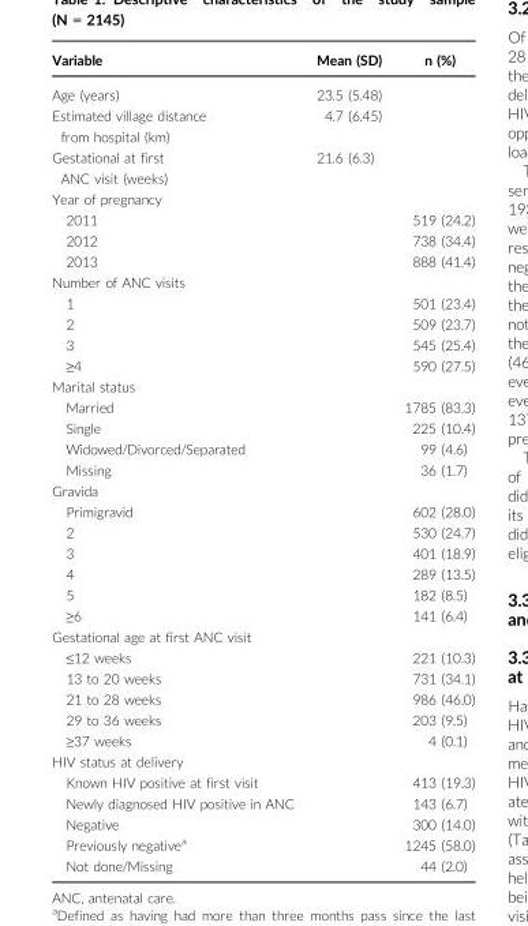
<table><thead><tr><td>Variable</td><td>Mean (SD)</td><td>n (%)</td></tr></thead><tbody><tr><td>Age (years)</td><td>23.5 (5.48)</td><td></td></tr><tr><td>Estimated village distance from hospital (km)</td><td>4.7 (6.45)</td><td></td></tr><tr><td>Gestational at first ANC visit (weeks)</td><td>21.6 (6.3)</td><td></td></tr><tr><td colspan="3">Year of pregnancy</td></tr><tr><td>2011</td><td></td><td>519 (24.2)</td></tr><tr><td>2012</td><td></td><td>738 (34.4)</td></tr><tr><td>2013</td><td></td><td>888 (41.4)</td></tr><tr><td colspan="3">Number of ANC visits</td></tr><tr><td>1</td><td></td><td>501 (23.4)</td></tr><tr><td>2</td><td></td><td>509 (23.7)</td></tr><tr><td>3</td><td></td><td>545 (25.4)</td></tr><tr><td>≥4</td><td></td><td>590 (27.5)</td></tr><tr><td colspan="3">Marital status</td></tr><tr><td>Married</td><td></td><td>1785 (83.3)</td></tr><tr><td>Single</td><td></td><td>225 (10.4)</td></tr><tr><td>Widowed/Divorced/Separated</td><td></td><td>99 (4.6)</td></tr><tr><td>Missing</td><td></td><td>36 (1.7)</td></tr><tr><td colspan="3">Gravida</td></tr><tr><td>Primigravid</td><td></td><td>602 (28.0)</td></tr><tr><td>2</td><td></td><td>530 (24.7)</td></tr><tr><td>3</td><td></td><td>401 (18.9)</td></tr><tr><td>4</td><td></td><td>289 (13.5)</td></tr><tr><td>5</td><td></td><td>182 (8.5)</td></tr><tr><td>≥6</td><td></td><td>141 (6.4)</td></tr><tr><td colspan="3">Gestational age at first ANC visit</td></tr><tr><td>≤12 weeks</td><td></td><td>221 (10.3)</td></tr><tr><td>13 to 20 weeks</td><td></td><td>731 (34.1)</td></tr><tr><td>21 to 28 weeks</td><td></td><td>986 (46.0)</td></tr><tr><td>29 to 36 weeks</td><td></td><td>203 (9.5)</td></tr><tr><td>≥37 weeks</td><td></td><td>4 (0.1)</td></tr><tr><td colspan="3">HIV status at delivery</td></tr><tr><td>Known HIV positive at first visit</td><td></td><td>413 (19.3)</td></tr><tr><td>Newly diagnosed HIV positive in ANC</td><td></td><td>143 (6.7)</td></tr><tr><td>Negative</td><td></td><td>300 (14.0)</td></tr><tr><td>Previously negative<sup>a</sup></td><td></td><td>1245 (58.0)</td></tr><tr><td>Not done/Missing</td><td></td><td>44 (2.0)</td></tr></tbody></table>